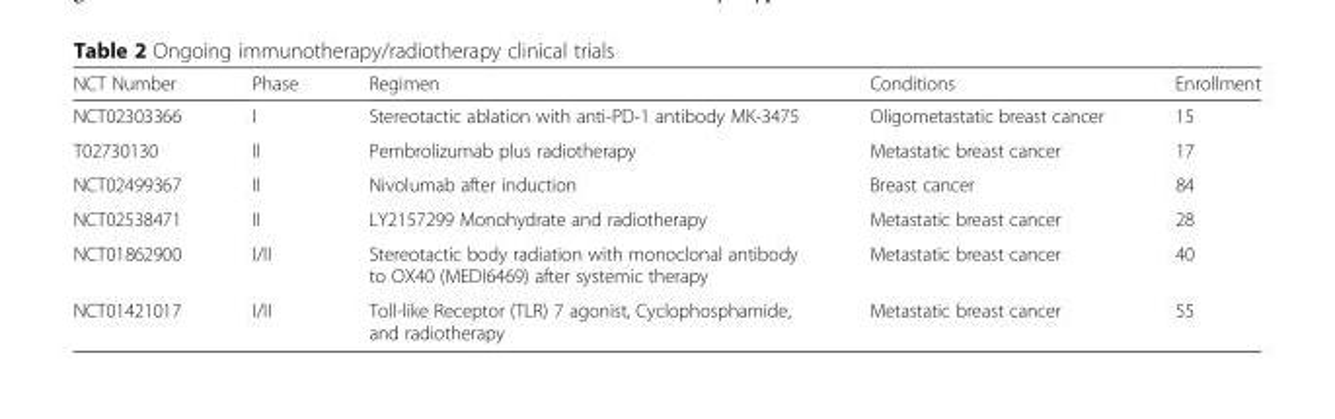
<table><thead><tr><td>NCT Number</td><td>Phase</td><td>Regimen</td><td>Conditions</td><td>Enrollment</td></tr></thead><tbody><tr><td>NCT02303366</td><td>I</td><td>Stereotactic ablation with anti-PD-1 antibody MK-3475</td><td>Oligometastatic breast cancer</td><td>15</td></tr><tr><td>T02730130</td><td>II</td><td>Pembrolizumab plus radiotherapy</td><td>Metastatic breast cancer</td><td>17</td></tr><tr><td>NCT02499367</td><td>II</td><td>Nivolumab after induction</td><td>Breast cancer</td><td>84</td></tr><tr><td>NCT02538471</td><td>II</td><td>LY2157299 Monohydrate and radiotherapy</td><td>Metastatic breast cancer</td><td>28</td></tr><tr><td>NCT01862900</td><td>I/II</td><td>Stereotactic body radiation with monoclonal antibody to OX40 (MEDI6469) after systemic therapy</td><td>Metastatic breast cancer</td><td>40</td></tr><tr><td>NCT01421017</td><td>I/II</td><td>Toll-like Receptor (TLR) 7 agonist, Cyclophosphamide, and radiotherapy</td><td>Metastatic breast cancer</td><td>55</td></tr></tbody></table>